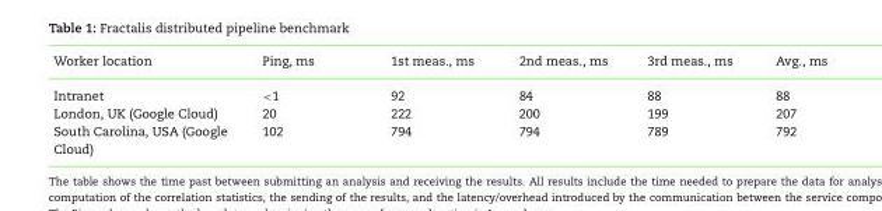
<table><thead><tr><td>Worker location</td><td>Ping, ms</td><td>1st meas., ms</td><td>2nd meas., ms</td><td>3rd meas., ms</td><td>Avg., ms</td></tr></thead><tbody><tr><td>Intranet</td><td>&lt;1</td><td>92</td><td>84</td><td>88</td><td>88</td></tr><tr><td>London, UK (Google Cloud)</td><td>20</td><td>222</td><td>200</td><td>199</td><td>207</td></tr><tr><td>South Carolina, USA (Google Cloud)</td><td>102</td><td>794</td><td>794</td><td>789</td><td>792</td></tr></tbody></table>